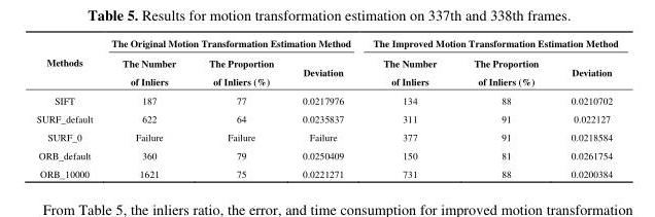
<table><thead><tr><td rowspan="2">Methods</td><td colspan="3">The Original Motion Transformation Estimation Method</td><td colspan="3">The Improved Motion Transformation Estimation Method</td></tr><tr><td>The Number of Inliers</td><td>The Proportion of Inliers (%)</td><td>Deviation</td><td>The Number of Inliers</td><td>The Proportion of Inliers (%)</td><td>Deviation</td></tr></thead><tbody><tr><td>SIFT</td><td>187</td><td>77</td><td>0.0217976</td><td>134</td><td>88</td><td>0.0210702</td></tr><tr><td>SURF_default</td><td>622</td><td>64</td><td>0.0235837</td><td>311</td><td>91</td><td>0.022127</td></tr><tr><td>SURF_0</td><td>Failure</td><td>Failure</td><td>Failure</td><td>377</td><td>91</td><td>0.0218584</td></tr><tr><td>ORB_default</td><td>360</td><td>79</td><td>0.0250409</td><td>150</td><td>81</td><td>0.0261754</td></tr><tr><td>ORB_10000</td><td>1621</td><td>75</td><td>0.0221271</td><td>731</td><td>88</td><td>0.0200384</td></tr></tbody></table>